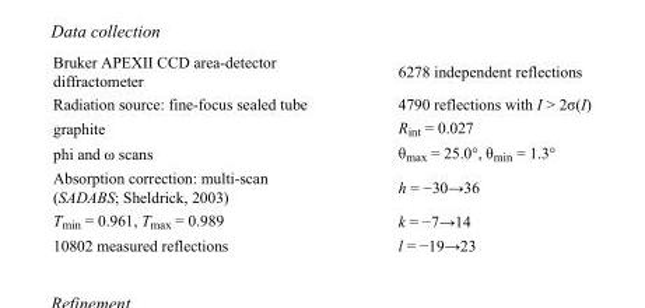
<table><tbody><tr><td>Bruker APEXII CCD area-detector diffractometer</td><td>6278 independent reflections</td></tr><tr><td>Radiation source: fine-focus sealed tube</td><td>4790 reflections with I &gt; 2σ(I)</td></tr><tr><td>graphite</td><td>R<sub>int</sub> = 0.027</td></tr><tr><td>phi and ω scans</td><td>θ<sub>max</sub> = 25.0°, θ<sub>min</sub> = 1.3°</td></tr><tr><td>Absorption correction: multi-scan (SADABS; Sheldrick, 2003)</td><td>h = −30→36</td></tr><tr><td>T<sub>min</sub> = 0.961, T<sub>max</sub> = 0.989</td><td>k = −7→14</td></tr><tr><td>10802 measured reflections</td><td>l = −19→23</td></tr></tbody></table>